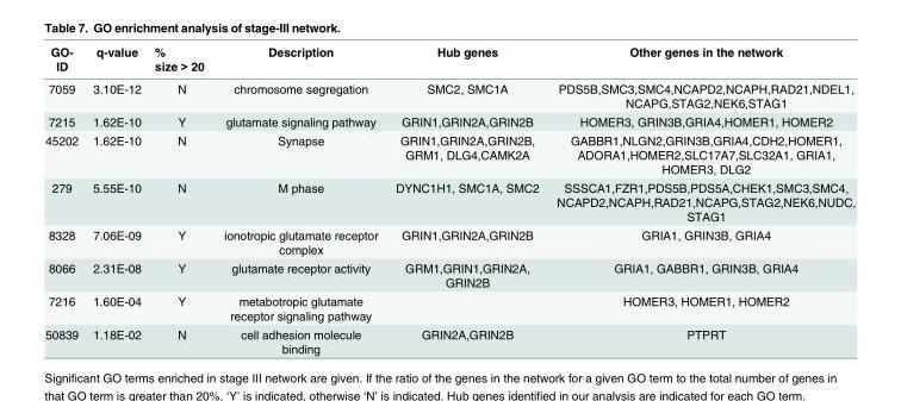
<table><thead><tr><td>GO- ID</td><td>q-value</td><td>% size &gt; 20</td><td>Description</td><td>Hub genes</td><td>Other genes in the network</td></tr></thead><tbody><tr><td>7059</td><td>3.10E-12</td><td>N</td><td>chromosome segregation</td><td>SMC2, SMC1A</td><td>PDS5B,SMC3,SMC4,NCAPD2,NCAPH,RAD21,NDEL1, NCAPG,STAG2,NEK6,STAG1</td></tr><tr><td>7215</td><td>1.62E-10</td><td>Y</td><td>glutamate signaling pathway</td><td>GRIN1,GRIN2A,GRIN2B</td><td>HOMER3, GRIN3B,GRIA4,HOMER1, HOMER2</td></tr><tr><td>45202</td><td>1.62E-10</td><td>N</td><td>Synapse</td><td>GRIN1,GRIN2A,GRIN2B, GRM1, DLG4,CAMK2A</td><td>GABBR1,NLGN2,GRIN3B,GRIA4,CDH2,HOMER1, ADORA1,HOMER2,SLC17A7,SLC32A1, GRIA1, HOMER3, DLG2</td></tr><tr><td>279</td><td>5.55E-10</td><td>N</td><td>M phase</td><td>DYNC1H1, SMC1A, SMC2</td><td>SSSCA1,FZR1,PDS5B,PDS5A,CHEK1,SMC3,SMC4, NCAPD2,NCAPH,RAD21,NCAPG,STAG2,NEK6,NUDC, STAG1</td></tr><tr><td>8328</td><td>7.06E-09</td><td>Y</td><td>ionotropic glutamate receptor complex</td><td>GRIN1,GRIN2A,GRIN2B</td><td>GRIA1, GRIN3B, GRIA4</td></tr><tr><td>8066</td><td>2.31E-08</td><td>Y</td><td>glutamate receptor activity</td><td>GRM1,GRIN1,GRIN2A, GRIN2B</td><td>GRIA1, GABBR1, GRIN3B, GRIA4</td></tr><tr><td>7216</td><td>1.60E-04</td><td>Y</td><td>metabotropic glutamate receptor signaling pathway</td><td></td><td>HOMER3, HOMER1, HOMER2</td></tr><tr><td>50839</td><td>1.18E-02</td><td>N</td><td>cell adhesion molecule binding</td><td>GRIN2A,GRIN2B</td><td>PTPRT</td></tr></tbody></table>